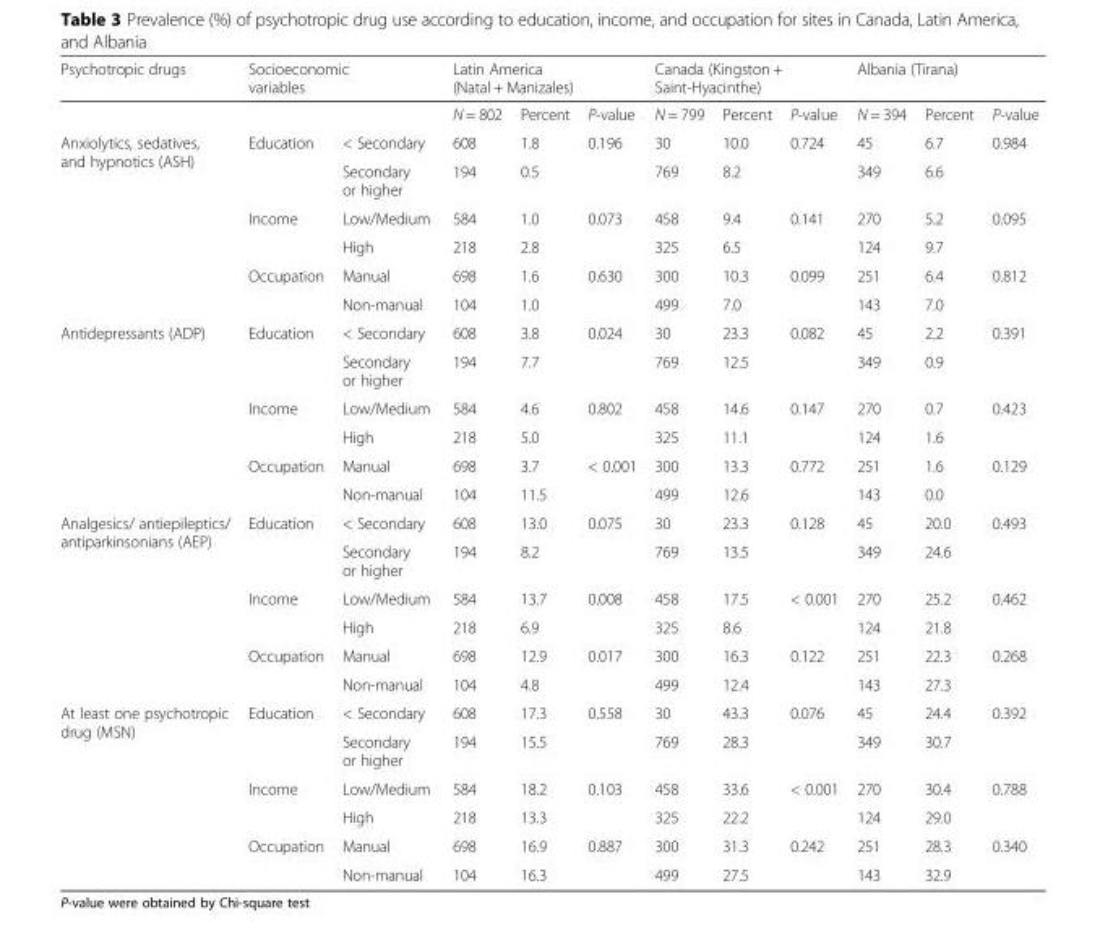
<table><thead><tr><td rowspan="2">Psychotropic drugs</td><td colspan="2">Socioeconomic variables</td><td colspan="3">Latin America (Natal + Manizales)</td><td colspan="3">Canada (Kingston + Saint-Hyacinthe)</td><td colspan="3">Albania (Tirana)</td></tr><tr><td></td><td></td><td>N = 802</td><td>Percent</td><td>P-value</td><td>N = 799</td><td>Percent</td><td>P-value</td><td>N = 394</td><td>Percent</td><td>P-value</td></tr></thead><tbody><tr><td rowspan="6">Anxiolytics, sedatives, and hypnotics (ASH)</td><td>Education</td><td>&lt; Secondary</td><td>608</td><td>1.8</td><td>0.196</td><td>30</td><td>10.0</td><td>0.724</td><td>45</td><td>6.7</td><td>0.984</td></tr><tr><td></td><td>Secondary or higher</td><td>194</td><td>0.5</td><td></td><td>769</td><td>8.2</td><td></td><td>349</td><td>6.6</td><td></td></tr><tr><td>Income</td><td>Low/Medium</td><td>584</td><td>1.0</td><td>0.073</td><td>458</td><td>9.4</td><td>0.141</td><td>270</td><td>5.2</td><td>0.095</td></tr><tr><td></td><td>High</td><td>218</td><td>2.8</td><td></td><td>325</td><td>6.5</td><td></td><td>124</td><td>9.7</td><td></td></tr><tr><td>Occupation</td><td>Manual</td><td>698</td><td>1.6</td><td>0.630</td><td>300</td><td>10.3</td><td>0.099</td><td>251</td><td>6.4</td><td>0.812</td></tr><tr><td></td><td>Non-manual</td><td>104</td><td>1.0</td><td></td><td>499</td><td>7.0</td><td></td><td>143</td><td>7.0</td><td></td></tr><tr><td rowspan="6">Antidepressants (ADP)</td><td>Education</td><td>&lt; Secondary</td><td>608</td><td>3.8</td><td>0.024</td><td>30</td><td>23.3</td><td>0.082</td><td>45</td><td>2.2</td><td>0.391</td></tr><tr><td></td><td>Secondary or higher</td><td>194</td><td>7.7</td><td></td><td>769</td><td>12.5</td><td></td><td>349</td><td>0.9</td><td></td></tr><tr><td>Income</td><td>Low/Medium</td><td>584</td><td>4.6</td><td>0.802</td><td>458</td><td>14.6</td><td>0.147</td><td>270</td><td>0.7</td><td>0.423</td></tr><tr><td></td><td>High</td><td>218</td><td>5.0</td><td></td><td>325</td><td>11.1</td><td></td><td>124</td><td>1.6</td><td></td></tr><tr><td>Occupation</td><td>Manual</td><td>698</td><td>3.7</td><td>&lt; 0.001</td><td>300</td><td>13.3</td><td>0.772</td><td>251</td><td>1.6</td><td>0.129</td></tr><tr><td></td><td>Non-manual</td><td>104</td><td>11.5</td><td></td><td>499</td><td>12.6</td><td></td><td>143</td><td>0.0</td><td></td></tr><tr><td rowspan="6">Analgesics/ antiepileptics/ antiparkinsonians (AEP)</td><td>Education</td><td>&lt; Secondary</td><td>608</td><td>13.0</td><td>0.075</td><td>30</td><td>23.3</td><td>0.128</td><td>45</td><td>20.0</td><td>0.493</td></tr><tr><td></td><td>Secondary or higher</td><td>194</td><td>8.2</td><td></td><td>769</td><td>13.5</td><td></td><td>349</td><td>24.6</td><td></td></tr><tr><td>Income</td><td>Low/Medium</td><td>584</td><td>13.7</td><td>0.008</td><td>458</td><td>17.5</td><td>&lt; 0.001</td><td>270</td><td>25.2</td><td>0.462</td></tr><tr><td></td><td>High</td><td>218</td><td>6.9</td><td></td><td>325</td><td>8.6</td><td></td><td>124</td><td>21.8</td><td></td></tr><tr><td>Occupation</td><td>Manual</td><td>698</td><td>12.9</td><td>0.017</td><td>300</td><td>16.3</td><td>0.122</td><td>251</td><td>22.3</td><td>0.268</td></tr><tr><td></td><td>Non-manual</td><td>104</td><td>4.8</td><td></td><td>499</td><td>12.4</td><td></td><td>143</td><td>27.3</td><td></td></tr><tr><td rowspan="6">At least one psychotropic drug (MSN)</td><td>Education</td><td>&lt; Secondary</td><td>608</td><td>17.3</td><td>0.558</td><td>30</td><td>43.3</td><td>0.076</td><td>45</td><td>24.4</td><td>0.392</td></tr><tr><td></td><td>Secondary or higher</td><td>194</td><td>15.5</td><td></td><td>769</td><td>28.3</td><td></td><td>349</td><td>30.7</td><td></td></tr><tr><td>Income</td><td>Low/Medium</td><td>584</td><td>18.2</td><td>0.103</td><td>458</td><td>33.6</td><td>&lt; 0.001</td><td>270</td><td>30.4</td><td>0.788</td></tr><tr><td></td><td>High</td><td>218</td><td>13.3</td><td></td><td>325</td><td>22.2</td><td></td><td>124</td><td>29.0</td><td></td></tr><tr><td>Occupation</td><td>Manual</td><td>698</td><td>16.9</td><td>0.887</td><td>300</td><td>31.3</td><td>0.242</td><td>251</td><td>28.3</td><td>0.340</td></tr><tr><td></td><td>Non-manual</td><td>104</td><td>16.3</td><td></td><td>499</td><td>27.5</td><td></td><td>143</td><td>32.9</td><td></td></tr></tbody></table>